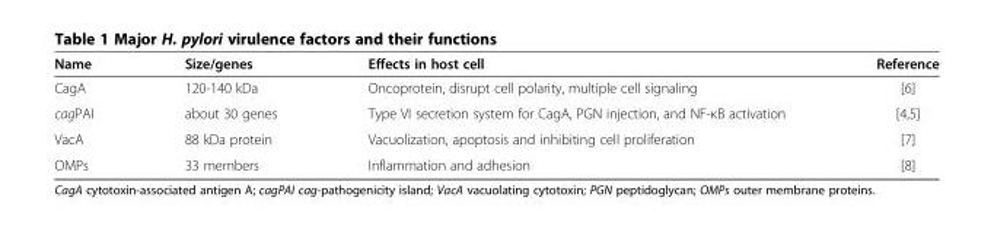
<table><thead><tr><td>Name</td><td>Size/genes</td><td>Effects in host cell</td><td>Reference</td></tr></thead><tbody><tr><td>CagA</td><td>120-140 kDa</td><td>Oncoprotein, disrupt cell polarity, multiple cell signaling</td><td>[6]</td></tr><tr><td>cagPAI</td><td>about 30 genes</td><td>Type VI secretion system for CagA, PGN injection, and NF-κB activation</td><td>[4,5]</td></tr><tr><td>VacA</td><td>88 kDa protein</td><td>Vacuolization, apoptosis and inhibiting cell proliferation</td><td>[7]</td></tr><tr><td>OMPs</td><td>33 members</td><td>Inflammation and adhesion</td><td>[8]</td></tr></tbody></table>